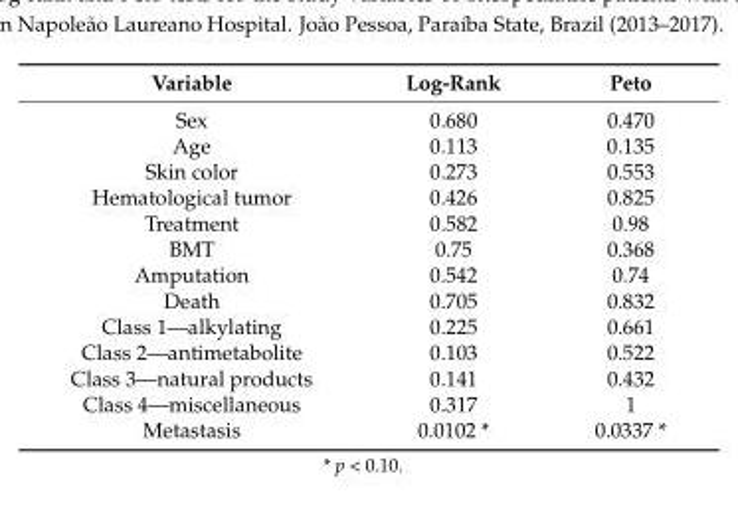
<table><thead><tr><td>Variable</td><td>Log-Rank</td><td>Peto</td></tr></thead><tbody><tr><td>Sex</td><td>0.680</td><td>0.470</td></tr><tr><td>Age</td><td>0.113</td><td>0.135</td></tr><tr><td>Skin color</td><td>0.273</td><td>0.553</td></tr><tr><td>Hematological tumor</td><td>0.426</td><td>0.825</td></tr><tr><td>Treatment</td><td>0.582</td><td>0.98</td></tr><tr><td>BMT</td><td>0.75</td><td>0.368</td></tr><tr><td>Amputation</td><td>0.542</td><td>0.74</td></tr><tr><td>Death</td><td>0.705</td><td>0.832</td></tr><tr><td>Class 1—alkylating</td><td>0.225</td><td>0.661</td></tr><tr><td>Class 2—antimetabolite</td><td>0.103</td><td>0.522</td></tr><tr><td>Class 3—natural products</td><td>0.141</td><td>0.432</td></tr><tr><td>Class 4—miscellaneous</td><td>0.317</td><td>1</td></tr><tr><td>Metastasis</td><td>0.0102 *</td><td>0.0337 *</td></tr></tbody></table>